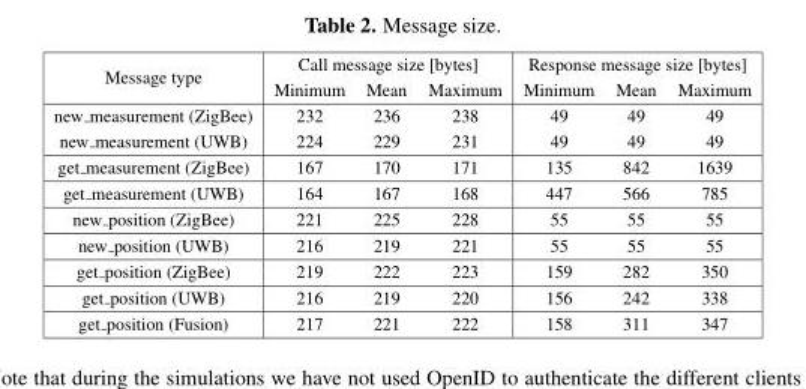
<table><thead><tr><td rowspan="2">Message type</td><td colspan="3">Call message size [bytes]</td><td colspan="3">Response message size [bytes]</td></tr><tr><td>Minimum</td><td>Mean</td><td>Maximum</td><td>Minimum</td><td>Mean</td><td>Maximum</td></tr></thead><tbody><tr><td>new measurement (ZigBee)</td><td>232</td><td>236</td><td>238</td><td>49</td><td>49</td><td>49</td></tr><tr><td>new measurement (UWB)</td><td>224</td><td>229</td><td>231</td><td>49</td><td>49</td><td>49</td></tr><tr><td>get measurement (ZigBee)</td><td>167</td><td>170</td><td>171</td><td>135</td><td>842</td><td>1639</td></tr><tr><td>get measurement (UWB)</td><td>164</td><td>167</td><td>168</td><td>447</td><td>566</td><td>785</td></tr><tr><td>new position (ZigBee)</td><td>221</td><td>225</td><td>228</td><td>55</td><td>55</td><td>55</td></tr><tr><td>new position (UWB)</td><td>216</td><td>219</td><td>221</td><td>55</td><td>55</td><td>55</td></tr><tr><td>get position (ZigBee)</td><td>219</td><td>222</td><td>223</td><td>159</td><td>282</td><td>350</td></tr><tr><td>get position (UWB)</td><td>216</td><td>219</td><td>220</td><td>156</td><td>242</td><td>338</td></tr><tr><td>get position (Fusion)</td><td>217</td><td>221</td><td>222</td><td>158</td><td>311</td><td>347</td></tr></tbody></table>